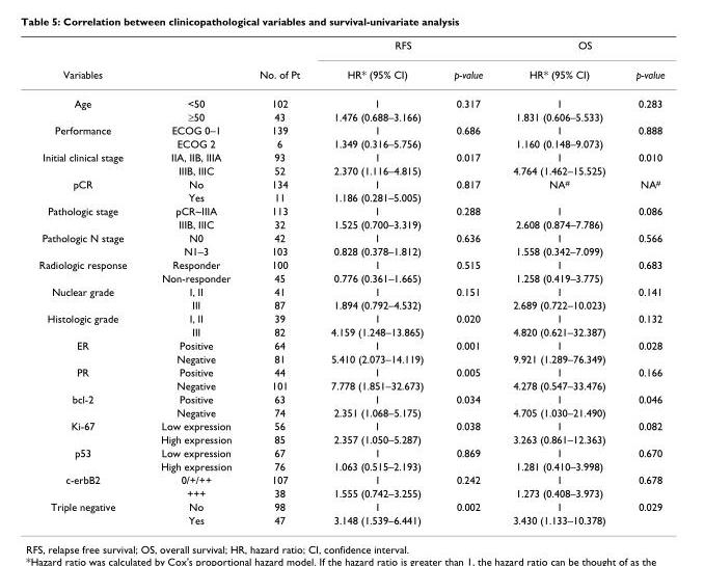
<table><thead><tr><td rowspan="2">Variables</td><td rowspan="2"></td><td rowspan="2">No. of Pt</td><td colspan="2">RFS</td><td colspan="2">OS</td></tr><tr><td>HR* (95% CI)</td><td>p-value</td><td>HR* (95% CI)</td><td>p-value</td></tr></thead><tbody><tr><td rowspan="2">Age</td><td>&lt;50</td><td>102</td><td>1</td><td>0.317</td><td>1</td><td>0.283</td></tr><tr><td>≥50</td><td>43</td><td>1.476 (0.688–3.166)</td><td></td><td>1.831 (0.606–5.533)</td><td></td></tr><tr><td rowspan="2">Performance</td><td>ECOG 0–1</td><td>139</td><td>1</td><td>0.686</td><td>1</td><td>0.888</td></tr><tr><td>ECOG 2</td><td>6</td><td>1.349 (0.316–5.756)</td><td></td><td>1.160 (0.148–9.073)</td><td></td></tr><tr><td rowspan="2">Initial clinical stage</td><td>IIA, IIB, IIIA</td><td>93</td><td>1</td><td>0.017</td><td>1</td><td>0.010</td></tr><tr><td>IIIB, IIIC</td><td>52</td><td>2.370 (1.116–4.815)</td><td></td><td>4.764 (1.462–15.525)</td><td></td></tr><tr><td rowspan="2">pCR</td><td>No</td><td>134</td><td>1</td><td>0.817</td><td>NA<sup>#</sup></td><td>NA<sup>#</sup></td></tr><tr><td>Yes</td><td>11</td><td>1.186 (0.281–5.005)</td><td></td><td></td><td></td></tr><tr><td rowspan="2">Pathologic stage</td><td>pCR~IIIA</td><td>113</td><td>1</td><td>0.288</td><td>1</td><td>0.086</td></tr><tr><td>IIIB, IIIC</td><td>32</td><td>1.525 (0.700–3.319)</td><td></td><td>2.608 (0.874–7.786)</td><td></td></tr><tr><td rowspan="2">Pathologic N stage</td><td>N0</td><td>42</td><td>1</td><td>0.636</td><td>1</td><td>0.566</td></tr><tr><td>N1–3</td><td>103</td><td>0.828 (0.378–1.812)</td><td></td><td>1.558 (0.342–7.099)</td><td></td></tr><tr><td rowspan="2">Radiologic response</td><td>Responder</td><td>100</td><td>1</td><td>0.515</td><td>1</td><td>0.683</td></tr><tr><td>Non-responder</td><td>45</td><td>0.776 (0.361–1.665)</td><td></td><td>1.258 (0.419–3.775)</td><td></td></tr><tr><td rowspan="2">Nuclear grade</td><td>I, II</td><td>41</td><td>1</td><td>0.151</td><td>1</td><td>0.141</td></tr><tr><td>III</td><td>87</td><td>1.894 (0.792–4.532)</td><td></td><td>2.689 (0.722–10.023)</td><td></td></tr><tr><td rowspan="2">Histologic grade</td><td>I, II</td><td>39</td><td>1</td><td>0.020</td><td>1</td><td>0.132</td></tr><tr><td>III</td><td>82</td><td>4.159 (1.248–13.865)</td><td></td><td>4.820 (0.621–32.387)</td><td></td></tr><tr><td rowspan="2">ER</td><td>Positive</td><td>64</td><td>1</td><td>0.001</td><td>1</td><td>0.028</td></tr><tr><td>Negative</td><td>81</td><td>5.410 (2.073–14.119)</td><td></td><td>9.921 (1.289–76.349)</td><td></td></tr><tr><td rowspan="2">PR</td><td>Positive</td><td>44</td><td>1</td><td>0.005</td><td>1</td><td>0.166</td></tr><tr><td>Negative</td><td>101</td><td>7.778 (1.851–32.673)</td><td></td><td>4.278 (0.547–33.476)</td><td></td></tr><tr><td rowspan="2">bcl-2</td><td>Positive</td><td>63</td><td>1</td><td>0.034</td><td>1</td><td>0.046</td></tr><tr><td>Negative</td><td>74</td><td>2.351 (1.068–5.175)</td><td></td><td>4.705 (1.030–21.490)</td><td></td></tr><tr><td rowspan="2">Ki-67</td><td>Low expression</td><td>56</td><td>1</td><td>0.038</td><td>1</td><td>0.082</td></tr><tr><td>High expression</td><td>85</td><td>2.357 (1.050–5.287)</td><td></td><td>3.263 (0.861–12.363)</td><td></td></tr><tr><td rowspan="2">p53</td><td>Low expression</td><td>67</td><td>1</td><td>0.869</td><td>1</td><td>0.670</td></tr><tr><td>High expression</td><td>76</td><td>1.063 (0.515–2.193)</td><td></td><td>1.281 (0.410–3.998)</td><td></td></tr><tr><td rowspan="2">c-erbB2</td><td>0/+/++</td><td>107</td><td>1</td><td>0.242</td><td>1</td><td>0.678</td></tr><tr><td>+++</td><td>38</td><td>1.555 (0.742–3.255)</td><td></td><td>1.273 (0.408–3.973)</td><td></td></tr><tr><td rowspan="2">Triple negative</td><td>No</td><td>98</td><td>1</td><td>0.002</td><td>1</td><td>0.029</td></tr><tr><td>Yes</td><td>47</td><td>3.148 (1.539–6.441)</td><td></td><td>3.430 (1.133–10.378)</td><td></td></tr></tbody></table>